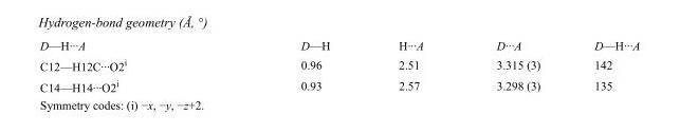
<table><tbody><tr><td>D—H···A</td><td>D—H</td><td>H···A</td><td>D···A</td><td>D—H···A</td></tr><tr><td>C12—H12C···O2<sup>i</sup></td><td>0.96</td><td>2.51</td><td>3.315 (3)</td><td>142</td></tr><tr><td>C14—H14···O2<sup>i</sup></td><td>0.93</td><td>2.57</td><td>3.298 (3)</td><td>135</td></tr></tbody></table>